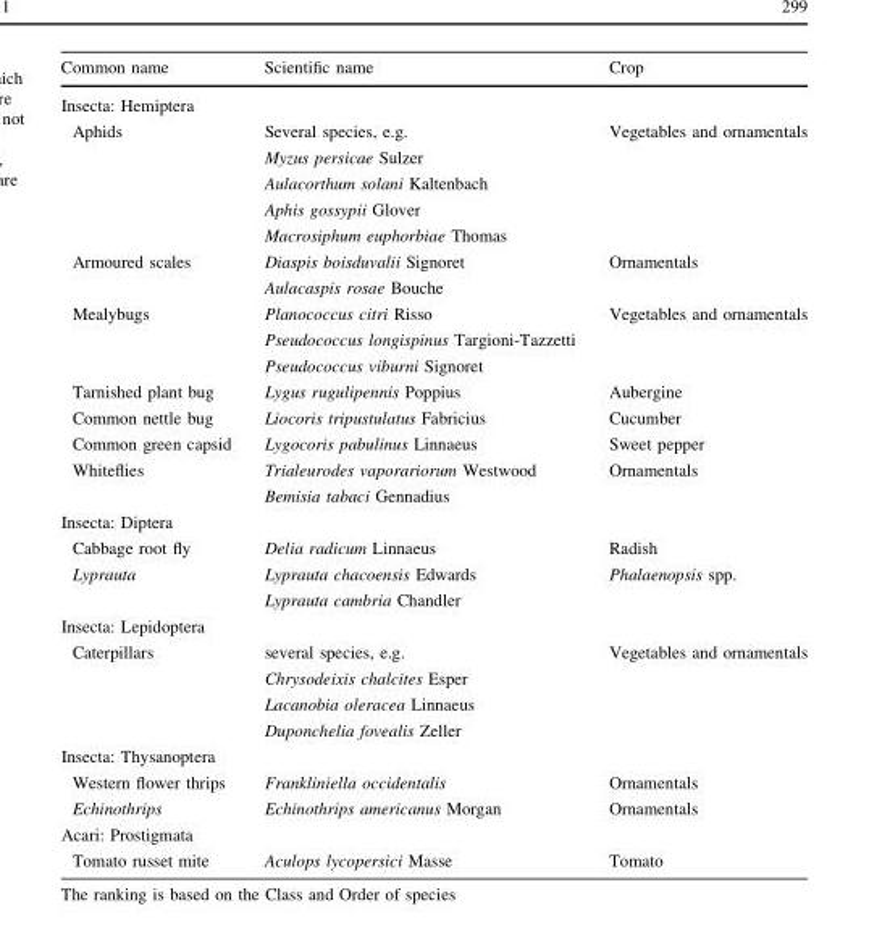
<table><thead><tr><td>Common name</td><td>Scientific name</td><td>Crop</td></tr></thead><tbody><tr><td colspan="3">Insecta: Hemiptera</td></tr><tr><td>Aphids</td><td>Several species, e.g. Myzus persicae Sulzer Aulacorthum solani Kaltenbach Aphis gossypii Glover Macrosiphum euphorbiae Thomas</td><td>Vegetables and ornamentals</td></tr><tr><td>Armoured scales</td><td>Diaspis boisduvalii Signoret Aulacaspis rosae Bouche</td><td>Ornamentals</td></tr><tr><td>Mealybugs</td><td>Planococcus citri Risso Pseudococcus longispinus Targioni-Tazzetti Pseudococcus viburni Signoret</td><td>Vegetables and ornamentals</td></tr><tr><td>Tarnished plant bug Common nettle bug Common green capsid</td><td>Lygus rugulipennis Poppius Liocoris tripustulatus Fabricius Lygocoris pabulinus Linnaeus</td><td>Aubergine Cucumber Sweet pepper</td></tr><tr><td>Whiteflies</td><td>Trialeurodes vaporariorum Westwood Bemisia tabaci Gennadius</td><td>Ornamentals</td></tr><tr><td colspan="3">Insecta: Diptera</td></tr><tr><td>Cabbage root fly</td><td>Delia radicum Linnaeus</td><td>Radish</td></tr><tr><td>Lyprauta</td><td>Lyprauta chacoensis Edwards Lyprauta cambria Chandler</td><td>Phalaenopsis spp.</td></tr><tr><td colspan="3">Insecta: Lepidoptera</td></tr><tr><td>Caterpillars</td><td>several species, e.g. Chrysodeixis chalcites Esper Lacanobia oleracea Linnaeus Duponchelia fovealis Zeller</td><td>Vegetables and ornamentals</td></tr><tr><td colspan="3">Insecta: Thysanoptera</td></tr><tr><td>Western flower thrips</td><td>Frankliniella occidentalis</td><td>Ornamentals</td></tr><tr><td>Echinothrips</td><td>Echinothrips americanus Morgan</td><td>Ornamentals</td></tr><tr><td colspan="3">Acari: Prostigmata</td></tr><tr><td>Tomato russet mite</td><td>Aculops lycopersici Masse</td><td>Tomato</td></tr></tbody></table>